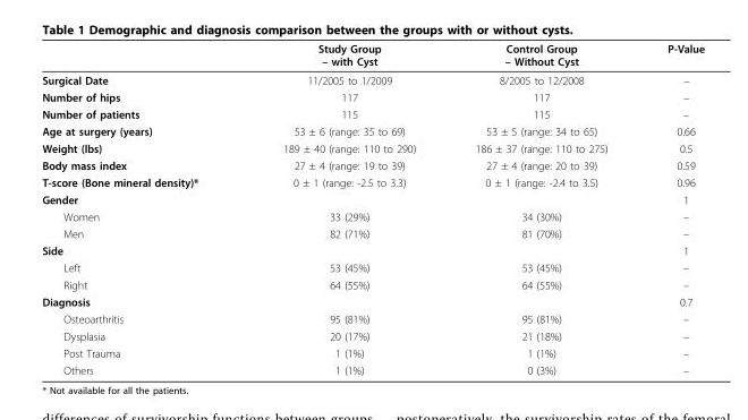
<table><thead><tr><td></td><td>Study Group – with Cyst</td><td>Control Group – Without Cyst</td><td>P-Value</td></tr></thead><tbody><tr><td>Surgical Date</td><td>11/2005 to 1/2009</td><td>8/2005 to 12/2008</td><td>–</td></tr><tr><td>Number of hips</td><td>117</td><td>117</td><td>–</td></tr><tr><td>Number of patients</td><td>115</td><td>115</td><td>–</td></tr><tr><td>Age at surgery (years)</td><td>53 ± 6 (range: 35 to 69)</td><td>53 ± 5 (range: 34 to 65)</td><td>0.66</td></tr><tr><td>Weight (lbs)</td><td>189 ± 40 (range: 110 to 290)</td><td>186 ± 37 (range: 110 to 275)</td><td>0.5</td></tr><tr><td>Body mass index</td><td>27 ± 4 (range: 19 to 39)</td><td>27 ± 4 (range: 20 to 39)</td><td>0.59</td></tr><tr><td>T-score (Bone mineral density)*</td><td>0 ± 1 (range: -2.5 to 3.3)</td><td>0 ± 1 (range: -2.4 to 3.5)</td><td>0.96</td></tr><tr><td>Gender</td><td></td><td></td><td>1</td></tr><tr><td>Women</td><td>33 (29%)</td><td>34 (30%)</td><td>–</td></tr><tr><td>Men</td><td>82 (71%)</td><td>81 (70%)</td><td>–</td></tr><tr><td>Side</td><td></td><td></td><td>1</td></tr><tr><td>Left</td><td>53 (45%)</td><td>53 (45%)</td><td>–</td></tr><tr><td>Right</td><td>64 (55%)</td><td>64 (55%)</td><td>–</td></tr><tr><td>Diagnosis</td><td></td><td></td><td>0.7</td></tr><tr><td>Osteoarthritis</td><td>95 (81%)</td><td>95 (81%)</td><td>–</td></tr><tr><td>Dysplasia</td><td>20 (17%)</td><td>21 (18%)</td><td>–</td></tr><tr><td>Post Trauma</td><td>1 (1%)</td><td>1 (1%)</td><td>–</td></tr><tr><td>Others</td><td>1 (1%)</td><td>0 (3%)</td><td>–</td></tr></tbody></table>